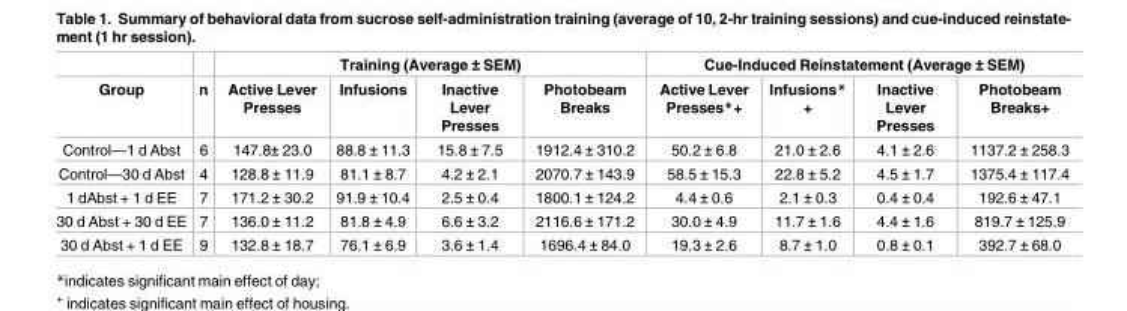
<table><thead><tr><td rowspan="2">Group</td><td rowspan="2">n</td><td colspan="4">Training (Average ± SEM)</td><td colspan="4">Cue-Induced Reinstatement (Average ± SEM)</td></tr><tr><td>Active Lever Presses</td><td>Infusions</td><td>Inactive Lever Presses</td><td>Photobeam Breaks</td><td>Active Lever Presses*+</td><td>Infusions* +</td><td>Inactive Lever Presses</td><td>Photobeam Breaks+</td></tr></thead><tbody><tr><td>Control—1 d Abst</td><td>6</td><td>147.8± 23.0</td><td>88.8 ± 11.3</td><td>15.8 ± 7.5</td><td>1912.4 ± 310.2</td><td>50.2 ± 6.8</td><td>21.0 ± 2.6</td><td>4.1 ± 2.6</td><td>1137.2 ± 258.3</td></tr><tr><td>Control—30 d Abst</td><td>4</td><td>128.8 ± 11.9</td><td>81.1 ± 8.7</td><td>4.2 ± 2.1</td><td>2070.7 ± 143.9</td><td>58.5 ± 15.3</td><td>22.8 ± 5.2</td><td>4.5 ± 1.7</td><td>1375.4 ± 117.4</td></tr><tr><td>1 dAbst + 1 d EE</td><td>7</td><td>171.2 ± 30.2</td><td>91.9 ± 10.4</td><td>2.5 ± 0.4</td><td>1800.1 ± 124.2</td><td>4.4 ± 0.6</td><td>2.1 ± 0.3</td><td>0.4 ± 0.4</td><td>192.6 ± 47.1</td></tr><tr><td>30 d Abst + 30 d EE</td><td>7</td><td>136.0 ± 11.2</td><td>81.8 ± 4.9</td><td>6.6 ± 3.2</td><td>2116.6 ± 171.2</td><td>30.0 ± 4.9</td><td>11.7 ± 1.6</td><td>4.4 ± 1.6</td><td>819.7 ± 125.9</td></tr><tr><td>30 d Abst + 1 d EE</td><td>9</td><td>132.8 ± 18.7</td><td>76.1 ± 6.9</td><td>3.6 ± 1.4</td><td>1696.4 ± 84.0</td><td>19.3 ± 2.6</td><td>8.7 ± 1.0</td><td>0.8 ± 0.1</td><td>392.7 ± 68.0</td></tr></tbody></table>